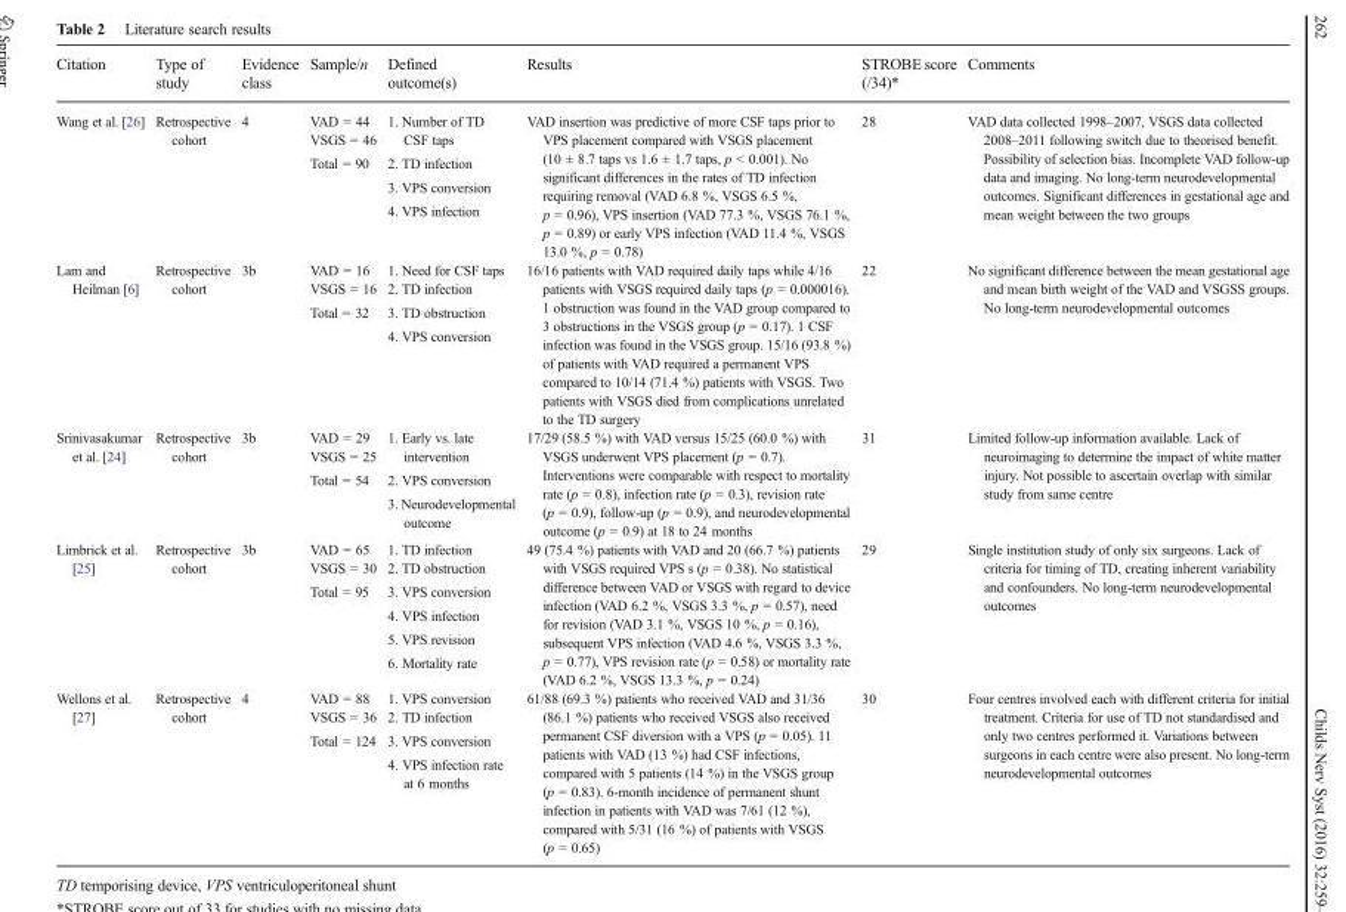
<table><thead><tr><td>Citation</td><td>Type of study</td><td>Evidence class</td><td>Sample/n</td><td>Defined outcome(s)</td><td>Results</td><td>STROBE score (/34)*</td><td>Comments</td></tr></thead><tbody><tr><td rowspan="5">Wang et al. [26]</td><td rowspan="5">Retrospective cohort</td><td rowspan="5">4</td><td>VAD = 44</td><td rowspan="2">1. Number of TD CSF taps</td><td rowspan="5">VAD insertion was predictive of more CSF taps prior to VPS placement compared with VSGS placement (10 ± 8.7 taps vs 1.6 ± 1.7 taps, p &lt; 0.001). No significant differences in the rates of TD infection requiring removal (VAD 6.8 %, VSGS 6.5 %, p = 0.96), VPS insertion (VAD 77.3 %, VSGS 76.1 %, p = 0.89) or early VPS infection (VAD 11.4 %, VSGS 13.0 %, p = 0.78)</td><td rowspan="5">28</td><td rowspan="5">VAD data collected 1998–2007, VSGS data collected 2008–2011 following switch due to theorised benefit. Possibility of selection bias. Incomplete VAD follow-up data and imaging. No long-term neurodevelopmental outcomes. Significant differences in gestational age and mean weight between the two groups</td></tr><tr><td>VSGS = 46</td></tr><tr><td rowspan="3">Total = 90</td><td>2. TD infection</td></tr><tr><td>3. VPS conversion</td></tr><tr><td>4. VPS infection</td></tr><tr><td rowspan="4">Lam and Heilman [6]</td><td rowspan="4">Retrospective cohort</td><td rowspan="4">3b</td><td>VAD = 16</td><td>1. Need for CSF taps</td><td rowspan="4">16/16 patients with VAD required daily taps while 4/16 patients with VSGS required daily taps (p = 0.000016). 1 obstruction was found in the VAD group compared to 3 obstructions in the VSGS group (p = 0.17). 1 CSF infection was found in the VSGS group. 15/16 (93.8 %) of patients with VAD required a permanent VPS compared to 10/14 (71.4 %) patients with VSGS. Two patients with VSGS died from complications unrelated to the TD surgery</td><td rowspan="4">22</td><td rowspan="4">No significant difference between the mean gestational age and mean birth weight of the VAD and VSGSS groups. No long-term neurodevelopmental outcomes</td></tr><tr><td>VSGS = 16</td><td>2. TD infection</td></tr><tr><td rowspan="2">Total = 32</td><td>3. TD obstruction</td></tr><tr><td>4. VPS conversion</td></tr><tr><td rowspan="4">Srinivasakumar et al. [24]</td><td rowspan="4">Retrospective cohort</td><td rowspan="4">3b</td><td>VAD = 29</td><td rowspan="2">1. Early vs. late intervention</td><td rowspan="4">17/29 (58.5 %) with VAD versus 15/25 (60.0 %) with VSGS underwent VPS placement (p = 0.7). Interventions were comparable with respect to mortality rate (p = 0.8), infection rate (p = 0.3), revision rate (p = 0.9), follow-up (p = 0.9), and neurodevelopmental outcome (p = 0.9) at 18 to 24 months</td><td rowspan="4">31</td><td rowspan="4">Limited follow-up information available. Lack of neuroimaging to determine the impact of white matter injury. Not possible to ascertain overlap with similar study from same centre</td></tr><tr><td>VSGS = 25</td></tr><tr><td rowspan="2">Total = 54</td><td>2. VPS conversion</td></tr><tr><td>3. Neurodevelopmental outcome</td></tr><tr><td rowspan="6">Limbrick et al. [25]</td><td rowspan="6">Retrospective cohort</td><td rowspan="6">3b</td><td>VAD = 65</td><td>1. TD infection</td><td rowspan="6">49 (75.4 %) patients with VAD and 20 (66.7 %) patients with VSGS required VPS s (p = 0.38). No statistical difference between VAD or VSGS with regard to device infection (VAD 6.2 %, VSGS 3.3 %, p = 0.57), need for revision (VAD 3.1 %, VSGS 10 %, p = 0.16), subsequent VPS infection (VAD 4.6 %, VSGS 3.3 %, p = 0.77), VPS revision rate (p = 0.58) or mortality rate (VAD 6.2 %, VSGS 13.3 %, p = 0.24)</td><td rowspan="6">29</td><td rowspan="6">Single institution study of only six surgeons. Lack of criteria for timing of TD, creating inherent variability and confounders. No long-term neurodevelopmental outcomes</td></tr><tr><td>VSGS = 30</td><td>2. TD obstruction</td></tr><tr><td rowspan="4">Total = 95</td><td>3. VPS conversion</td></tr><tr><td>4. VPS infection</td></tr><tr><td>5. VPS revision</td></tr><tr><td>6. Mortality rate</td></tr><tr><td rowspan="4">Wellons et al. [27]</td><td rowspan="4">Retrospective cohort</td><td rowspan="4">4</td><td>VAD = 88</td><td>1. VPS conversion</td><td rowspan="4">61/88 (69.3 %) patients who received VAD and 31/36 (86.1 %) patients who received VSGS also received permanent CSF diversion with a VPS (p = 0.05). 11 patients with VAD (13 %) had CSF infections, compared with 5 patients (14 %) in the VSGS group (p = 0.83). 6-month incidence of permanent shunt infection in patients with VAD was 7/61 (12 %), compared with 5/31 (16 %) of patients with VSGS (p = 0.65)</td><td rowspan="4">30</td><td rowspan="4">Four centres involved each with different criteria for initial treatment. Criteria for use of TD not standardised and only two centres performed it. Variations between surgeons in each centre were also present. No long-term neurodevelopmental outcomes</td></tr><tr><td>VSGS = 36</td><td>2. TD infection</td></tr><tr><td rowspan="2">Total = 124</td><td>3. VPS conversion</td></tr><tr><td>4. VPS infection rate at 6 months</td></tr></tbody></table>